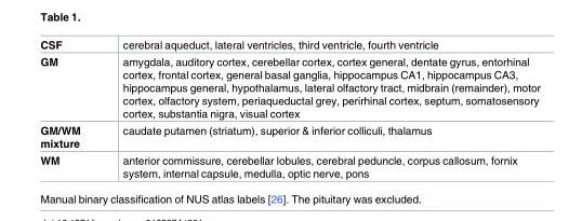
<table><tbody><tr><td>CSF</td><td>cerebral aqueduct, lateral ventricles, third ventricle, fourth ventricle</td></tr><tr><td>GM</td><td>amygdala, auditory cortex, cerebellar cortex, cortex general, dentate gyrus, entorhinal cortex, frontal cortex, general basal ganglia, hippocampus CA1, hippocampus CA3, hippocampus general, hypothalamus, lateral olfactory tract, midbrain (remainder), motor cortex, olfactory system, periaqueductal grey, perirhinal cortex, septum, somatosensory cortex, substantia nigra, visual cortex</td></tr><tr><td>GM/WM mixture</td><td>caudate putamen (striatum), superior &amp; inferior colliculi, thalamus</td></tr><tr><td>WM</td><td>anterior commissure, cerebellar lobules, cerebral peduncle, corpus callosum, fornix system, internal capsule, medulla, optic nerve, pons</td></tr></tbody></table>